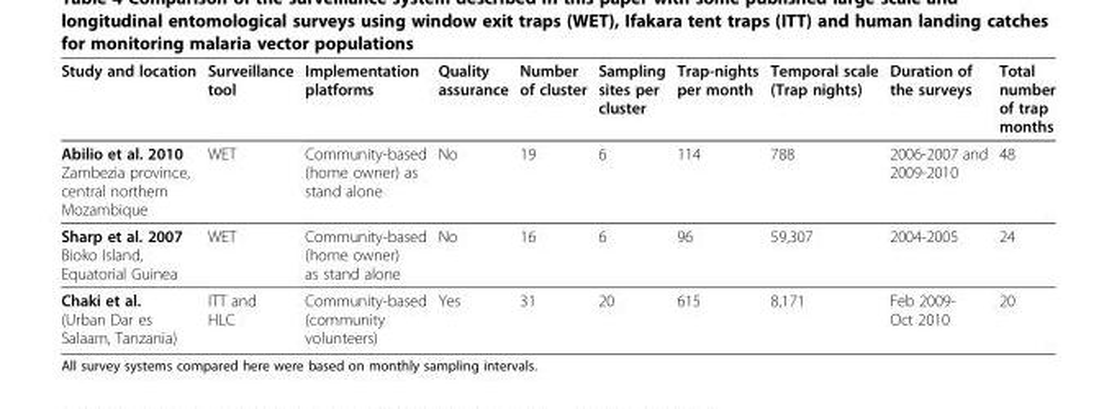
<table><thead><tr><td>Study and location</td><td>Surveillance tool</td><td>Implementation platforms</td><td>Quality assurance</td><td>Number of cluster</td><td>Sampling sites per cluster</td><td>Trap-nights per month</td><td>Temporal scale (Trap nights)</td><td>Duration of the surveys</td><td>Total number of trap months</td></tr></thead><tbody><tr><td>Abilio et al. 2010 Zambezia province, central northern Mozambique</td><td>WET</td><td>Community-based (home owner) as stand alone</td><td>No</td><td>19</td><td>6</td><td>114</td><td>788</td><td>2006-2007 and 2009-2010</td><td>48</td></tr><tr><td>Sharp et al. 2007 Bioko Island, Equatorial Guinea</td><td>WET</td><td>Community-based (home owner) as stand alone</td><td>No</td><td>16</td><td>6</td><td>96</td><td>59,307</td><td>2004-2005</td><td>24</td></tr><tr><td>Chaki et al. (Urban Dar es Salaam, Tanzania)</td><td>ITT and HLC</td><td>Community-based (community volunteers)</td><td>Yes</td><td>31</td><td>20</td><td>615</td><td>8,171</td><td>Feb 2009- Oct 2010</td><td>20</td></tr></tbody></table>